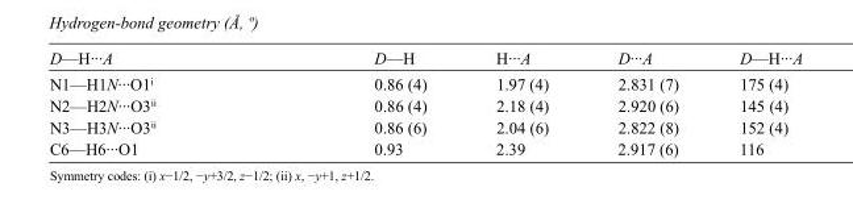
<table><tbody><tr><td>D—H···A</td><td>D—H</td><td>H···A</td><td>D···A</td><td>D—H···A</td></tr><tr><td>N1—H1N···O1<sup>i</sup></td><td>0.86 (4)</td><td>1.97 (4)</td><td>2.831 (7)</td><td>175 (4)</td></tr><tr><td>N2—H2N···O3<sup>ii</sup></td><td>0.86 (4)</td><td>2.18 (4)</td><td>2.920 (6)</td><td>145 (4)</td></tr><tr><td>N3—H3N···O3<sup>ii</sup></td><td>0.86 (6)</td><td>2.04 (6)</td><td>2.822 (8)</td><td>152 (4)</td></tr><tr><td>C6—H6···O1</td><td>0.93</td><td>2.39</td><td>2.917 (6)</td><td>116</td></tr></tbody></table>